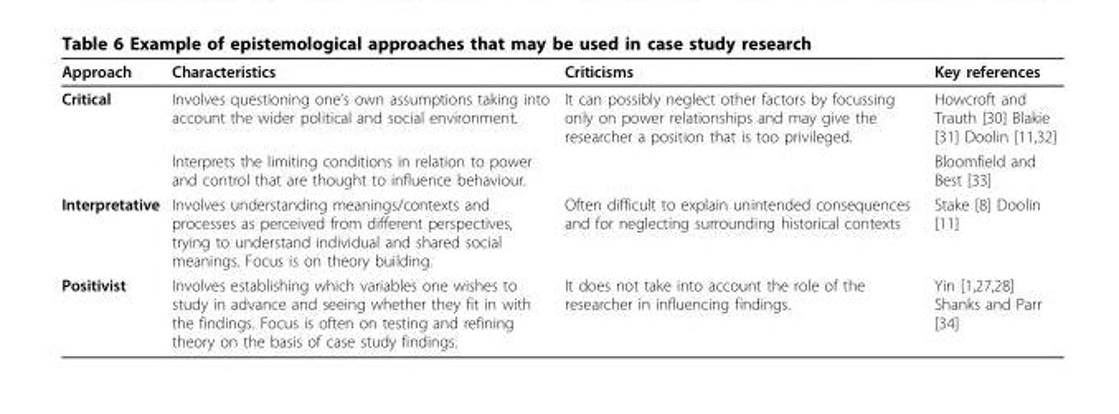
<table><thead><tr><td>Approach</td><td>Characteristics</td><td>Criticisms</td><td>Key references</td></tr></thead><tbody><tr><td rowspan="2">Critical</td><td>Involves questioning one’s own assumptions taking into account the wider political and social environment.</td><td>It can possibly neglect other factors by focussing only on power relationships and may give the researcher a position that is too privileged.</td><td>Howcroft and Trauth [30] Blakie [31] Doolin [11,32]</td></tr><tr><td>Interprets the limiting conditions in relation to power and control that are thought to influence behaviour.</td><td></td><td>Bloomfield and Best [33]</td></tr><tr><td>Interpretative</td><td>Involves understanding meanings/contexts and processes as perceived from different perspectives, trying to understand individual and shared social meanings. Focus is on theory building.</td><td>Often difficult to explain unintended consequences and for neglecting surrounding historical contexts</td><td>Stake [8] Doolin [11]</td></tr><tr><td>Positivist</td><td>Involves establishing which variables one wishes to study in advance and seeing whether they fit in with the findings. Focus is often on testing and refining theory on the basis of case study findings.</td><td>It does not take into account the role of the researcher in influencing findings.</td><td>Yin [1,27,28] Shanks and Parr [34]</td></tr></tbody></table>